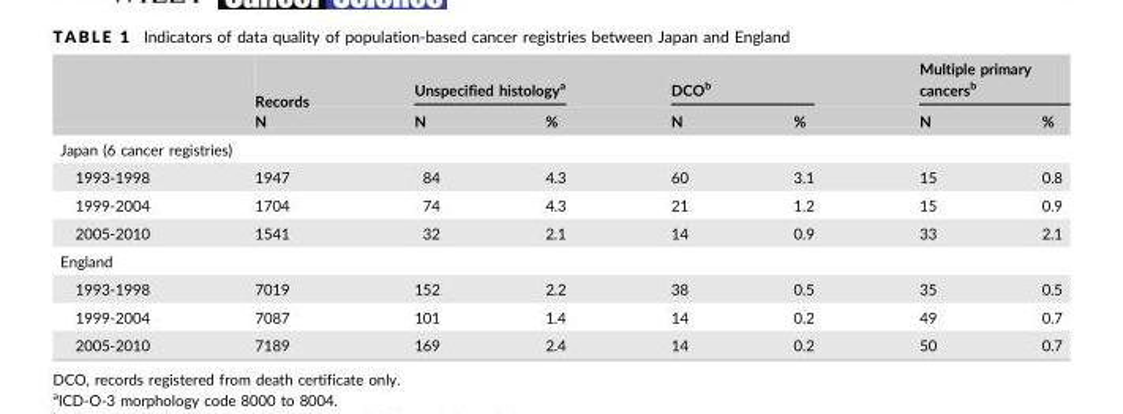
<table><thead><tr><td rowspan="2"></td><td rowspan="2">Records N</td><td colspan="2">Unspecified histology<sup>a</sup></td><td colspan="2">DCO<sup>b</sup></td><td colspan="2">Multiple primary cancers<sup>b</sup></td></tr><tr><td>N</td><td>%</td><td>N</td><td>%</td><td>N</td><td>%</td></tr></thead><tbody><tr><td colspan="8">Japan (6 cancer registries)</td></tr><tr><td>1993-1998</td><td>1947</td><td>84</td><td>4.3</td><td>60</td><td>3.1</td><td>15</td><td>0.8</td></tr><tr><td>1999-2004</td><td>1704</td><td>74</td><td>4.3</td><td>21</td><td>1.2</td><td>15</td><td>0.9</td></tr><tr><td>2005-2010</td><td>1541</td><td>32</td><td>2.1</td><td>14</td><td>0.9</td><td>33</td><td>2.1</td></tr><tr><td colspan="8">England</td></tr><tr><td>1993-1998</td><td>7019</td><td>152</td><td>2.2</td><td>38</td><td>0.5</td><td>35</td><td>0.5</td></tr><tr><td>1999-2004</td><td>7087</td><td>101</td><td>1.4</td><td>14</td><td>0.2</td><td>49</td><td>0.7</td></tr><tr><td>2005-2010</td><td>7189</td><td>169</td><td>2.4</td><td>14</td><td>0.2</td><td>50</td><td>0.7</td></tr></tbody></table>